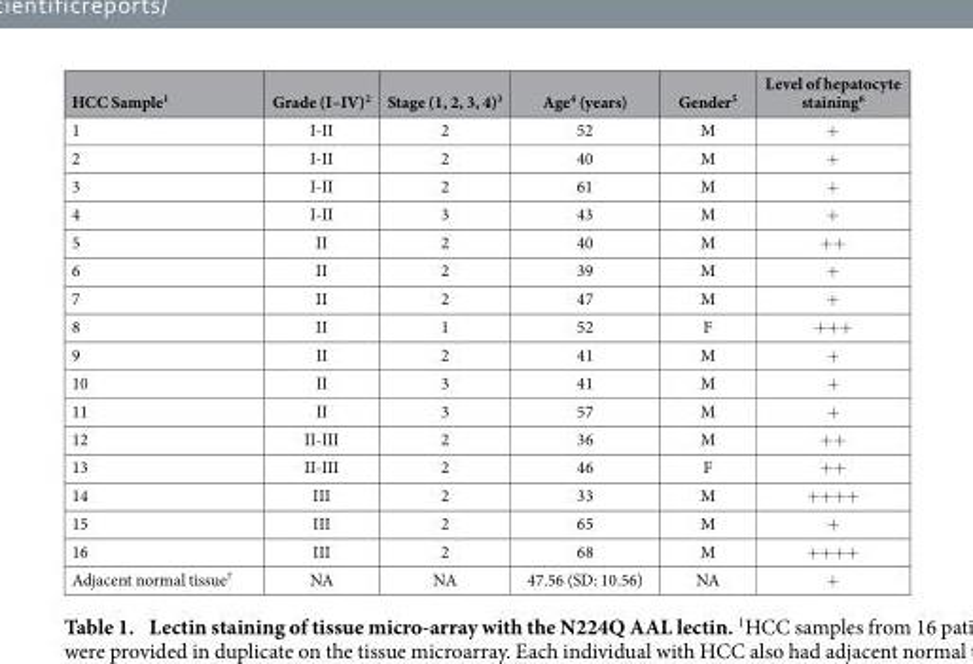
<table><thead><tr><td>HCC Sample<sup>1</sup></td><td>Grade (I–IV)<sup>2</sup></td><td>Stage (1, 2, 3, 4)<sup>3</sup></td><td>Age<sup>4</sup> (years)</td><td>Gender<sup>5</sup></td><td>Level of hepatocyte staining<sup>6</sup></td></tr></thead><tbody><tr><td>1</td><td>I-II</td><td>2</td><td>52</td><td>M</td><td>+</td></tr><tr><td>2</td><td>I-II</td><td>2</td><td>40</td><td>M</td><td>+</td></tr><tr><td>3</td><td>I-II</td><td>2</td><td>61</td><td>M</td><td>+</td></tr><tr><td>4</td><td>I-II</td><td>3</td><td>43</td><td>M</td><td>+</td></tr><tr><td>5</td><td>II</td><td>2</td><td>40</td><td>M</td><td>+ +</td></tr><tr><td>6</td><td>II</td><td>2</td><td>39</td><td>M</td><td>+</td></tr><tr><td>7</td><td>II</td><td>2</td><td>47</td><td>M</td><td>+</td></tr><tr><td>8</td><td>II</td><td>1</td><td>52</td><td>F</td><td>+ + +</td></tr><tr><td>9</td><td>II</td><td>2</td><td>41</td><td>M</td><td>+</td></tr><tr><td>10</td><td>II</td><td>3</td><td>41</td><td>M</td><td>+</td></tr><tr><td>11</td><td>II</td><td>3</td><td>57</td><td>M</td><td>+</td></tr><tr><td>12</td><td>II-III</td><td>2</td><td>36</td><td>M</td><td>+ +</td></tr><tr><td>13</td><td>II-III</td><td>2</td><td>46</td><td>F</td><td>+ +</td></tr><tr><td>14</td><td>III</td><td>2</td><td>33</td><td>M</td><td>+ + + +</td></tr><tr><td>15</td><td>III</td><td>2</td><td>65</td><td>M</td><td>+</td></tr><tr><td>16</td><td>III</td><td>2</td><td>68</td><td>M</td><td>+ + + +</td></tr><tr><td>Adjacent normal tissue<sup>7</sup></td><td>NA</td><td>NA</td><td>47.56 (SD: 10.56)</td><td>NA</td><td>+</td></tr></tbody></table>